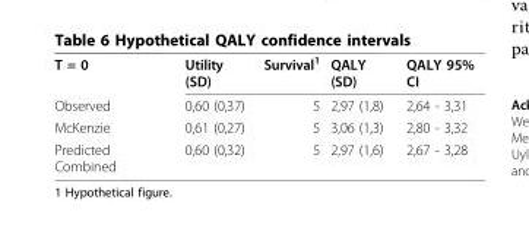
<table><tbody><tr><td>T = 0</td><td>Utility (SD)</td><td>Survival<sup>1</sup></td><td>QALY (SD)</td><td>QALY 95% CI</td></tr><tr><td>Observed</td><td>0,60 (0,37)</td><td>5</td><td>2,97 (1,8)</td><td>2,64 - 3,31</td></tr><tr><td>McKenzie</td><td>0,61 (0,27)</td><td>5</td><td>3,06 (1,3)</td><td>2,80 - 3,32</td></tr><tr><td>Predicted Combined</td><td>0,60 (0,32)</td><td>5</td><td>2,97 (1,6)</td><td>2,67 - 3,28</td></tr></tbody></table>